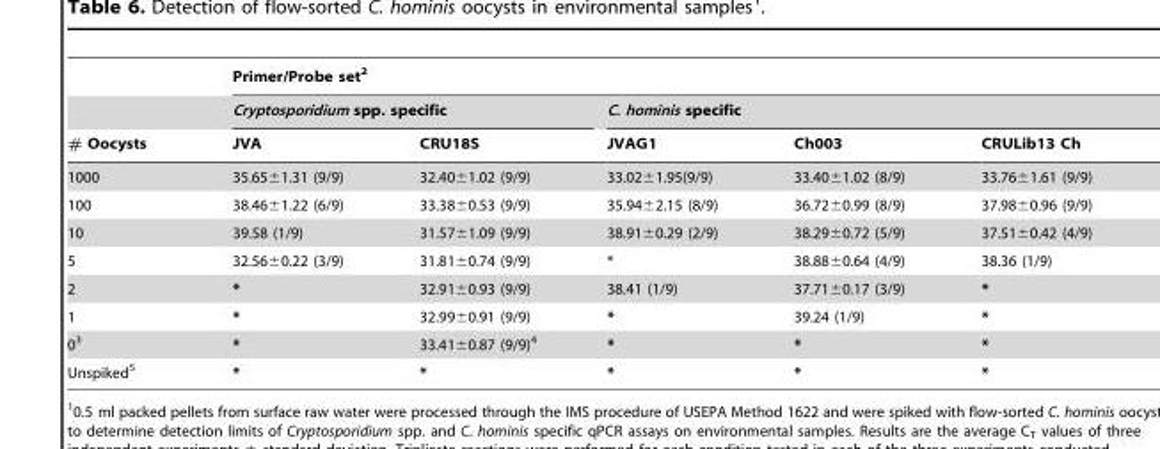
<table><thead><tr><td rowspan="3"># Oocysts</td><td colspan="5">Primer/Probe set<sup>2</sup></td></tr><tr><td colspan="2">Cryptosporidium spp. specific</td><td colspan="3">C. hominis specific</td></tr><tr><td>JVA</td><td>CRU18S</td><td>JVAG1</td><td>Ch003</td><td>CRULib13 Ch</td></tr></thead><tbody><tr><td>1000</td><td>35.65±1.31 (9/9)</td><td>32.40±1.02 (9/9)</td><td>33.02±1.95(9/9)</td><td>33.40±1.02 (8/9)</td><td>33.76±1.61 (9/9)</td></tr><tr><td>100</td><td>38.46±1.22 (6/9)</td><td>33.38±0.53 (9/9)</td><td>35.94±2.15 (8/9)</td><td>36.72±0.99 (8/9)</td><td>37.98±0.96 (9/9)</td></tr><tr><td>10</td><td>39.58 (1/9)</td><td>31.57±1.09 (9/9)</td><td>38.91±0.29 (2/9)</td><td>38.29±0.72 (5/9)</td><td>37.51±0.42 (4/9)</td></tr><tr><td>5</td><td>32.56±0.22 (3/9)</td><td>31.81±0.74 (9/9)</td><td>*</td><td>38.88±0.64 (4/9)</td><td>38.36 (1/9)</td></tr><tr><td>2</td><td>*</td><td>32.91±0.93 (9/9)</td><td>38.41 (1/9)</td><td>37.71±0.17 (3/9)</td><td>*</td></tr><tr><td>1</td><td>*</td><td>32.99±0.91 (9/9)</td><td>*</td><td>39.24 (1/9)</td><td>*</td></tr><tr><td>0<sup>3</sup></td><td>*</td><td>33.41±0.87 (9/9)<sup>4</sup></td><td>*</td><td>*</td><td>*</td></tr><tr><td>Unspiked<sup>5</sup></td><td>*</td><td>*</td><td>*</td><td>*</td><td>*</td></tr></tbody></table>